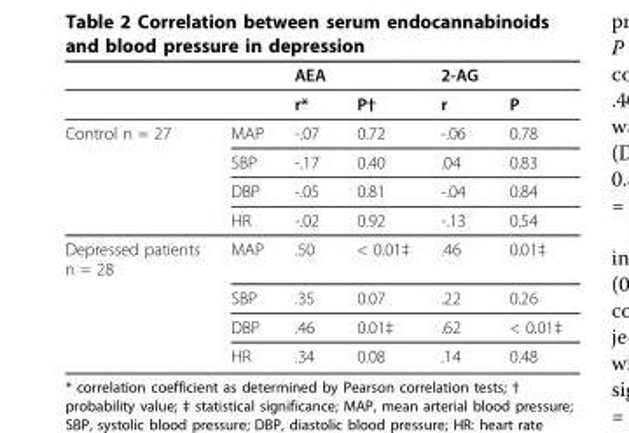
<table><thead><tr><td></td><td></td><td>AEA</td><td></td><td>2-AG</td><td></td></tr></thead><tbody><tr><td></td><td></td><td>r*</td><td>P†</td><td>r</td><td>P</td></tr><tr><td rowspan="4">Control n = 27</td><td>MAP</td><td>-.07</td><td>0.72</td><td>-.06</td><td>0.78</td></tr><tr><td>SBP</td><td>-.17</td><td>0.40</td><td>.04</td><td>0.83</td></tr><tr><td>DBP</td><td>-.05</td><td>0.81</td><td>-.04</td><td>0.84</td></tr><tr><td>HR</td><td>-.02</td><td>0.92</td><td>-.13</td><td>0.54</td></tr><tr><td rowspan="4">Depressed patients n = 28</td><td>MAP</td><td>.50</td><td>&lt; 0.01‡</td><td>.46</td><td>0.01‡</td></tr><tr><td>SBP</td><td>.35</td><td>0.07</td><td>.22</td><td>0.26</td></tr><tr><td>DBP</td><td>.46</td><td>0.01‡</td><td>.62</td><td>&lt; 0.01‡</td></tr><tr><td>HR</td><td>.34</td><td>0.08</td><td>.14</td><td>0.48</td></tr></tbody></table>